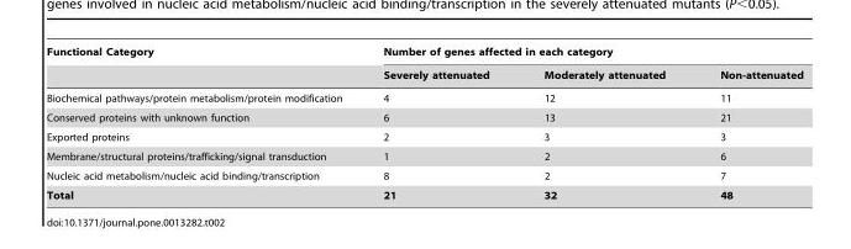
<table><thead><tr><td rowspan="2">Functional Category</td><td colspan="3">Number of genes affected in each category</td></tr><tr><td>Severely attenuated</td><td>Moderately attenuated</td><td>Non-attenuated</td></tr></thead><tbody><tr><td>Biochemical pathways/protein metabolism/protein modification</td><td>4</td><td>12</td><td>11</td></tr><tr><td>Conserved proteins with unknown function</td><td>6</td><td>13</td><td>21</td></tr><tr><td>Exported proteins</td><td>2</td><td>3</td><td>3</td></tr><tr><td>Membrane/structural proteins/trafficking/signal transduction</td><td>1</td><td>2</td><td>6</td></tr><tr><td>Nucleic acid metabolism/nucleic acid binding/transcription</td><td>8</td><td>2</td><td>7</td></tr><tr><td>Total</td><td>21</td><td>32</td><td>48</td></tr></tbody></table>